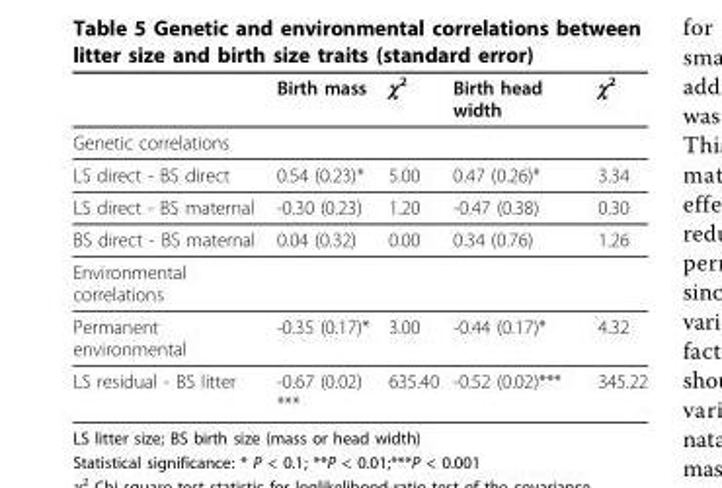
<table><thead><tr><td></td><td>Birth mass</td><td>χ<sup>2</sup></td><td>Birth head width</td><td>χ<sup>2</sup></td></tr></thead><tbody><tr><td colspan="5">Genetic correlations</td></tr><tr><td>LS direct - BS direct</td><td>0.54 (0.23)*</td><td>5.00</td><td>0.47 (0.26)*</td><td>3.34</td></tr><tr><td>LS direct - BS maternal</td><td>-0.30 (0.23)</td><td>1.20</td><td>-0.47 (0.38)</td><td>0.30</td></tr><tr><td>BS direct - BS maternal</td><td>0.04 (0.32)</td><td>0.00</td><td>0.34 (0.76)</td><td>1.26</td></tr><tr><td colspan="5">Environmental correlations</td></tr><tr><td>Permanent environmental</td><td>-0.35 (0.17)*</td><td>3.00</td><td>-0.44 (0.17)*</td><td>4.32</td></tr><tr><td>LS residual - BS litter</td><td>-0.67 (0.02) ***</td><td>635.40</td><td>-0.52 (0.02)***</td><td>345.22</td></tr></tbody></table>